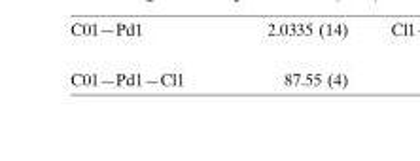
<table><tbody><tr><td>C01—Pd1—Cl1</td><td>87.55 (4)</td></tr></tbody></table>